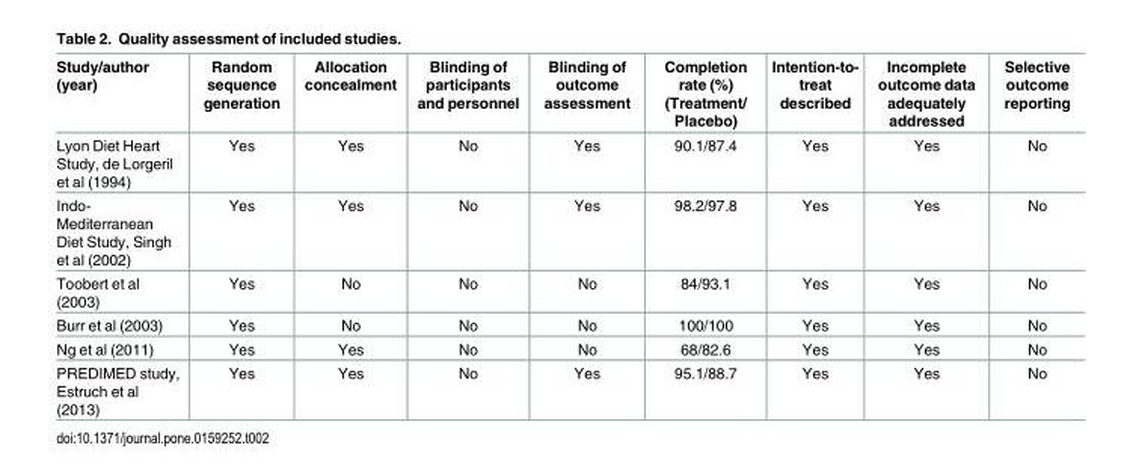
<table><thead><tr><td>Study/author (year)</td><td>Random sequence generation</td><td>Allocation concealment</td><td>Blinding of participants and personnel</td><td>Blinding of outcome assessment</td><td>Completion rate (%) (Treatment/ Placebo)</td><td>Intention-to- treat described</td><td>Incomplete outcome data adequately addressed</td><td>Selective outcome reporting</td></tr></thead><tbody><tr><td>Lyon Diet Heart Study, de Lorgeril et al (1994)</td><td>Yes</td><td>Yes</td><td>No</td><td>Yes</td><td>90.1/87.4</td><td>Yes</td><td>Yes</td><td>No</td></tr><tr><td>Indo- Mediterranean Diet Study, Singh et al (2002)</td><td>Yes</td><td>Yes</td><td>No</td><td>Yes</td><td>98.2/97.8</td><td>Yes</td><td>Yes</td><td>No</td></tr><tr><td>Toobert et al (2003)</td><td>Yes</td><td>No</td><td>No</td><td>No</td><td>84/93.1</td><td>Yes</td><td>Yes</td><td>No</td></tr><tr><td>Burr et al (2003)</td><td>Yes</td><td>No</td><td>No</td><td>No</td><td>100/100</td><td>Yes</td><td>Yes</td><td>No</td></tr><tr><td>Ng et al (2011)</td><td>Yes</td><td>Yes</td><td>No</td><td>No</td><td>68/82.6</td><td>Yes</td><td>Yes</td><td>No</td></tr><tr><td>PREDIMED study, Estruch et al (2013)</td><td>Yes</td><td>Yes</td><td>No</td><td>Yes</td><td>95.1/88.7</td><td>Yes</td><td>Yes</td><td>No</td></tr></tbody></table>